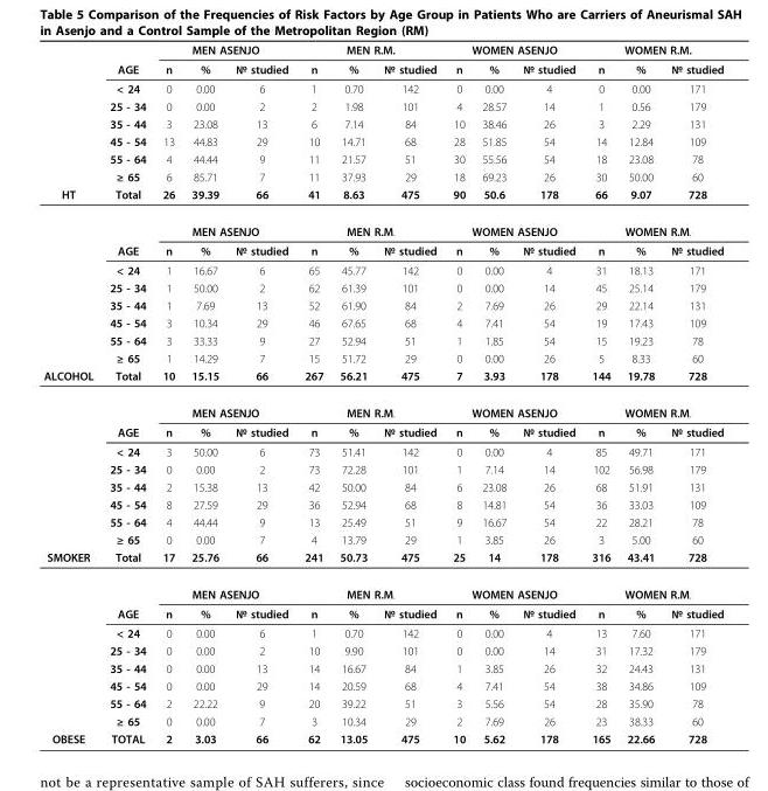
<table><thead><tr><td rowspan="9">HT</td><td rowspan="9">AGE &lt; 24 25 - 34 35 - 44 45 - 54 55 - 64 ≥ 65 Total</td><td colspan="3">MEN ASENJO</td><td colspan="3">MEN R.M.</td><td colspan="3">WOMEN ASENJO</td><td colspan="3">WOMEN R.M.</td></tr><tr><td rowspan="8">n 0 0 3 13 4 6 26</td><td rowspan="8">% 0.00 0.00 23.08 44.83 44.44 85.71 39.39</td><td rowspan="8">№ studied 6 2 13 29 9 7 66</td><td rowspan="8">n 1 2 6 10 11 11 41</td><td rowspan="8">% 0.70 1.98 7.14 14.71 21.57 37.93 8.63</td><td rowspan="8">№ studied 142 101 84 68 51 29 475</td><td rowspan="8">n 0 4 10 28 30 18 90</td><td rowspan="8">% 0.00 28.57 38.46 51.85 55.56 69.23 50.6</td><td rowspan="8">№ studied 4 14 26 54 54 26 178</td><td rowspan="8">n 0 1 3 14 18 30 66</td><td rowspan="8">% 0.00 0.56 2.29 12.84 23.08 50.00 9.07</td><td rowspan="8">№ studied 171 179 131 109 78 60 728</td></tr><tr></tr><tr></tr><tr></tr><tr></tr><tr></tr><tr></tr><tr></tr></thead><tbody><tr><td></td><td></td><td colspan="3">MEN ASENJO</td><td colspan="3">MEN R.M.</td><td colspan="3">WOMEN ASENJO</td><td colspan="3">WOMEN R.M.</td></tr><tr><td></td><td>AGE</td><td>n</td><td>%</td><td>№ studied</td><td>n</td><td>%</td><td>№ studied</td><td>n</td><td>%</td><td>№ studied</td><td>n</td><td>%</td><td>№ studied</td></tr><tr><td></td><td>&lt; 24</td><td>1</td><td>16.67</td><td>6</td><td>65</td><td>45.77</td><td>142</td><td>0</td><td>0.00</td><td>4</td><td>31</td><td>18.13</td><td>171</td></tr><tr><td></td><td>25 - 34</td><td>1</td><td>50.00</td><td>2</td><td>62</td><td>61.39</td><td>101</td><td>0</td><td>0.00</td><td>14</td><td>45</td><td>25.14</td><td>179</td></tr><tr><td></td><td>35 - 44</td><td>1</td><td>7.69</td><td>13</td><td>52</td><td>61.90</td><td>84</td><td>2</td><td>7.69</td><td>26</td><td>29</td><td>22.14</td><td>131</td></tr><tr><td></td><td>45 - 54</td><td>3</td><td>10.34</td><td>29</td><td>46</td><td>67.65</td><td>68</td><td>4</td><td>7.41</td><td>54</td><td>19</td><td>17.43</td><td>109</td></tr><tr><td></td><td>55 - 64</td><td>3</td><td>33.33</td><td>9</td><td>27</td><td>52.94</td><td>51</td><td>1</td><td>1.85</td><td>54</td><td>15</td><td>19.23</td><td>78</td></tr><tr><td></td><td>≥ 65</td><td>1</td><td>14.29</td><td>7</td><td>15</td><td>51.72</td><td>29</td><td>0</td><td>0.00</td><td>26</td><td>5</td><td>8.33</td><td>60</td></tr><tr><td rowspan="9">ALCOHOL</td><td>Total</td><td>10</td><td>15.15</td><td>66</td><td>267</td><td>56.21</td><td>475</td><td>7</td><td>3.93</td><td>178</td><td>144</td><td>19.78</td><td>728</td></tr><tr><td></td><td colspan="3">MEN ASENJO</td><td colspan="3">MEN R.M.</td><td colspan="3">WOMEN ASENJO</td><td colspan="3">WOMEN R.M.</td></tr><tr><td>AGE</td><td>n</td><td>%</td><td>№ studied</td><td>n</td><td>%</td><td>№ studied</td><td>n</td><td>%</td><td>№ studied</td><td>n</td><td>%</td><td>№ studied</td></tr><tr><td>&lt; 24</td><td>3</td><td>50.00</td><td>6</td><td>73</td><td>51.41</td><td>142</td><td>0</td><td>0.00</td><td>4</td><td>85</td><td>49.71</td><td>171</td></tr><tr><td>25 - 34</td><td>0</td><td>0.00</td><td>2</td><td>73</td><td>72.28</td><td>101</td><td>1</td><td>7.14</td><td>14</td><td>102</td><td>56.98</td><td>179</td></tr><tr><td>35 - 44</td><td>2</td><td>15.38</td><td>13</td><td>42</td><td>50.00</td><td>84</td><td>6</td><td>23.08</td><td>26</td><td>68</td><td>51.91</td><td>131</td></tr><tr><td>45 - 54</td><td>8</td><td>27.59</td><td>29</td><td>36</td><td>52.94</td><td>68</td><td>8</td><td>14.81</td><td>54</td><td>36</td><td>33.03</td><td>109</td></tr><tr><td>55 - 64</td><td>4</td><td>44.44</td><td>9</td><td>13</td><td>25.49</td><td>51</td><td>9</td><td>16.67</td><td>54</td><td>22</td><td>28.21</td><td>78</td></tr><tr><td>≥ 65</td><td>0</td><td>0.00</td><td>7</td><td>4</td><td>13.79</td><td>29</td><td>1</td><td>3.85</td><td>26</td><td>3</td><td>5.00</td><td>60</td></tr><tr><td rowspan="9">SMOKER</td><td>Total</td><td>17</td><td>25.76</td><td>66</td><td>241</td><td>50.73</td><td>475</td><td>25</td><td>14</td><td>178</td><td>316</td><td>43.41</td><td>728</td></tr><tr><td></td><td colspan="3">MEN ASENJO</td><td colspan="3">MEN R.M.</td><td colspan="3">WOMEN ASENJO</td><td colspan="3">WOMEN R.M.</td></tr><tr><td>AGE</td><td>n</td><td>%</td><td>№ studied</td><td>n</td><td>%</td><td>№ studied</td><td>n</td><td>%</td><td>№ studied</td><td>n</td><td>%</td><td>№ studied</td></tr><tr><td>&lt; 24</td><td>0</td><td>0.00</td><td>6</td><td>1</td><td>0.70</td><td>142</td><td>0</td><td>0.00</td><td>4</td><td>13</td><td>7.60</td><td>171</td></tr><tr><td>25 - 34</td><td>0</td><td>0.00</td><td>2</td><td>10</td><td>9.90</td><td>101</td><td>0</td><td>0.00</td><td>14</td><td>31</td><td>17.32</td><td>179</td></tr><tr><td>35 - 44</td><td>0</td><td>0.00</td><td>13</td><td>14</td><td>16.67</td><td>84</td><td>1</td><td>3.85</td><td>26</td><td>32</td><td>24.43</td><td>131</td></tr><tr><td>45 - 54</td><td>0</td><td>0.00</td><td>29</td><td>14</td><td>20.59</td><td>68</td><td>4</td><td>7.41</td><td>54</td><td>38</td><td>34.86</td><td>109</td></tr><tr><td>55 - 64</td><td>2</td><td>22.22</td><td>9</td><td>20</td><td>39.22</td><td>51</td><td>3</td><td>5.56</td><td>54</td><td>28</td><td>35.90</td><td>78</td></tr><tr><td>≥ 65</td><td>0</td><td>0.00</td><td>7</td><td>3</td><td>10.34</td><td>29</td><td>2</td><td>7.69</td><td>26</td><td>23</td><td>38.33</td><td>60</td></tr><tr><td>OBESE</td><td>TOTAL</td><td>2</td><td>3.03</td><td>66</td><td>62</td><td>13.05</td><td>475</td><td>10</td><td>5.62</td><td>178</td><td>165</td><td>22.66</td><td>728</td></tr></tbody></table>